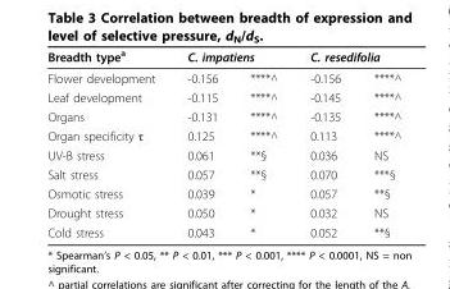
<table><thead><tr><td rowspan="2">Breadth type<sup>a</sup> Flower development</td><td colspan="2">C. impatiens</td><td colspan="2">C. resedifolia</td></tr><tr><td>-0.156</td><td>****^</td><td>-0.156</td><td>****^</td></tr></thead><tbody><tr><td>Leaf development</td><td>-0.115</td><td>****^</td><td>-0.145</td><td>****^</td></tr><tr><td>Organs</td><td>-0.131</td><td>****^</td><td>-0.135</td><td>****^</td></tr><tr><td>Organ specificity τ</td><td>0.125</td><td>****^</td><td>0.113</td><td>****^</td></tr><tr><td>UV-B stress</td><td>0.061</td><td>**§</td><td>0.036</td><td>NS</td></tr><tr><td>Salt stress</td><td>0.057</td><td>**§</td><td>0.070</td><td>***§</td></tr><tr><td>Osmotic stress</td><td>0.039</td><td>*</td><td>0.057</td><td>**§</td></tr><tr><td>Drought stress</td><td>0.050</td><td>*</td><td>0.032</td><td>NS</td></tr><tr><td>Cold stress</td><td>0.043</td><td>*</td><td>0.052</td><td>**§</td></tr></tbody></table>